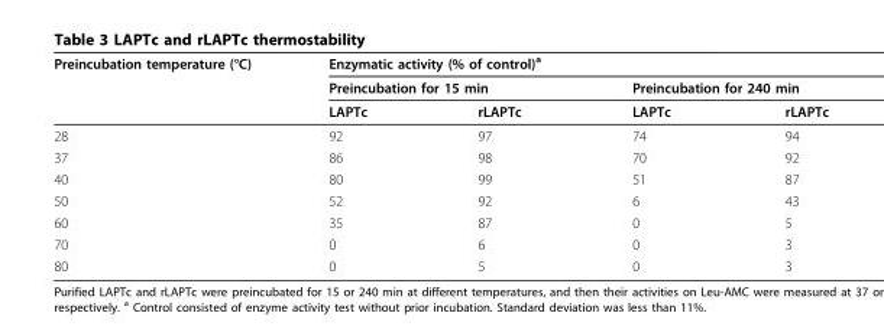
<table><thead><tr><td rowspan="3">Preincubation temperature (°C)</td><td colspan="4">Enzymatic activity (% of control)<sup>a</sup></td></tr><tr><td colspan="2">Preincubation for 15 min</td><td colspan="2">Preincubation for 240 min</td></tr><tr><td>LAPTc</td><td>rLAPTc</td><td>LAPTc</td><td>rLAPTc</td></tr></thead><tbody><tr><td>28</td><td>92</td><td>97</td><td>74</td><td>94</td></tr><tr><td>37</td><td>86</td><td>98</td><td>70</td><td>92</td></tr><tr><td>40</td><td>80</td><td>99</td><td>51</td><td>87</td></tr><tr><td>50</td><td>52</td><td>92</td><td>6</td><td>43</td></tr><tr><td>60</td><td>35</td><td>87</td><td>0</td><td>5</td></tr><tr><td>70</td><td>0</td><td>6</td><td>0</td><td>3</td></tr><tr><td>80</td><td>0</td><td>5</td><td>0</td><td>3</td></tr></tbody></table>